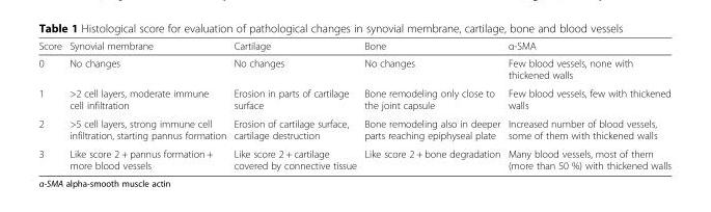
<table><thead><tr><td>Score</td><td>Synovial membrane</td><td>Cartilage</td><td>Bone</td><td>α-SMA</td></tr></thead><tbody><tr><td>0</td><td>No changes</td><td>No changes</td><td>No changes</td><td>Few blood vessels, none with thickened walls</td></tr><tr><td>1</td><td>&gt;2 cell layers, moderate immune cell infiltration</td><td>Erosion in parts of cartilage surface</td><td>Bone remodeling only close to the joint capsule</td><td>Few blood vessels, few with thickened walls</td></tr><tr><td>2</td><td>&gt;5 cell layers, strong immune cell infiltration, starting pannus formation</td><td>Erosion of cartilage surface, cartilage destruction</td><td>Bone remodeling also in deeper parts reaching epiphyseal plate</td><td>Increased number of blood vessels, some of them with thickened walls</td></tr><tr><td>3</td><td>Like score 2 + pannus formation + more blood vessels</td><td>Like score 2 + cartilage covered by connective tissue</td><td>Like score 2 + bone degradation</td><td>Many blood vessels, most of them (more than 50 %) with thickened walls</td></tr></tbody></table>